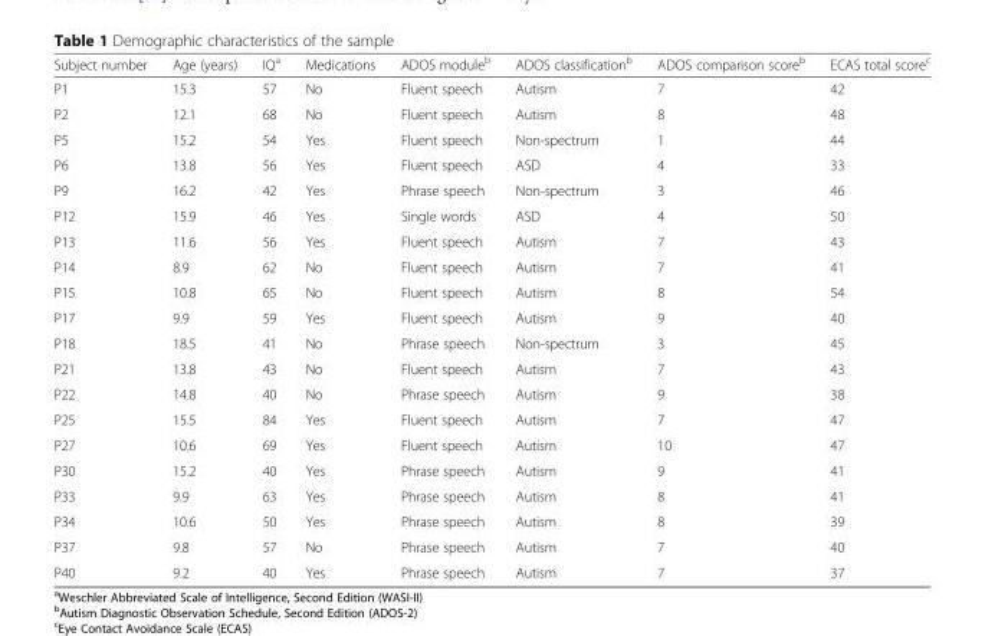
<table><thead><tr><td>Subject number</td><td>Age (years)</td><td>IQ<sup>a</sup></td><td>Medications</td><td>ADOS module<sup>b</sup></td><td>ADOS classification<sup>b</sup></td><td>ADOS comparison score<sup>b</sup></td><td>ECAS total score<sup>c</sup></td></tr></thead><tbody><tr><td>P1</td><td>15.3</td><td>57</td><td>No</td><td>Fluent speech</td><td>Autism</td><td>7</td><td>42</td></tr><tr><td>P2</td><td>12.1</td><td>68</td><td>No</td><td>Fluent speech</td><td>Autism</td><td>8</td><td>48</td></tr><tr><td>P5</td><td>15.2</td><td>54</td><td>Yes</td><td>Fluent speech</td><td>Non-spectrum</td><td>1</td><td>44</td></tr><tr><td>P6</td><td>13.8</td><td>56</td><td>Yes</td><td>Fluent speech</td><td>ASD</td><td>4</td><td>33</td></tr><tr><td>P9</td><td>16.2</td><td>42</td><td>Yes</td><td>Phrase speech</td><td>Non-spectrum</td><td>3</td><td>46</td></tr><tr><td>P12</td><td>15.9</td><td>46</td><td>Yes</td><td>Single words</td><td>ASD</td><td>4</td><td>50</td></tr><tr><td>P13</td><td>11.6</td><td>56</td><td>Yes</td><td>Fluent speech</td><td>Autism</td><td>7</td><td>43</td></tr><tr><td>P14</td><td>8.9</td><td>62</td><td>No</td><td>Fluent speech</td><td>Autism</td><td>7</td><td>41</td></tr><tr><td>P15</td><td>10.8</td><td>65</td><td>No</td><td>Fluent speech</td><td>Autism</td><td>8</td><td>54</td></tr><tr><td>P17</td><td>9.9</td><td>59</td><td>Yes</td><td>Fluent speech</td><td>Autism</td><td>9</td><td>40</td></tr><tr><td>P18</td><td>18.5</td><td>41</td><td>No</td><td>Phrase speech</td><td>Non-spectrum</td><td>3</td><td>45</td></tr><tr><td>P21</td><td>13.8</td><td>43</td><td>No</td><td>Fluent speech</td><td>Autism</td><td>7</td><td>43</td></tr><tr><td>P22</td><td>14.8</td><td>40</td><td>No</td><td>Phrase speech</td><td>Autism</td><td>9</td><td>38</td></tr><tr><td>P25</td><td>15.5</td><td>84</td><td>Yes</td><td>Fluent speech</td><td>Autism</td><td>7</td><td>47</td></tr><tr><td>P27</td><td>10.6</td><td>69</td><td>Yes</td><td>Fluent speech</td><td>Autism</td><td>10</td><td>47</td></tr><tr><td>P30</td><td>15.2</td><td>40</td><td>Yes</td><td>Phrase speech</td><td>Autism</td><td>9</td><td>41</td></tr><tr><td>P33</td><td>9.9</td><td>63</td><td>Yes</td><td>Phrase speech</td><td>Autism</td><td>8</td><td>41</td></tr><tr><td>P34</td><td>10.6</td><td>50</td><td>Yes</td><td>Phrase speech</td><td>Autism</td><td>8</td><td>39</td></tr><tr><td>P37</td><td>9.8</td><td>57</td><td>No</td><td>Phrase speech</td><td>Autism</td><td>7</td><td>40</td></tr><tr><td>P40</td><td>9.2</td><td>40</td><td>Yes</td><td>Phrase speech</td><td>Autism</td><td>7</td><td>37</td></tr></tbody></table>